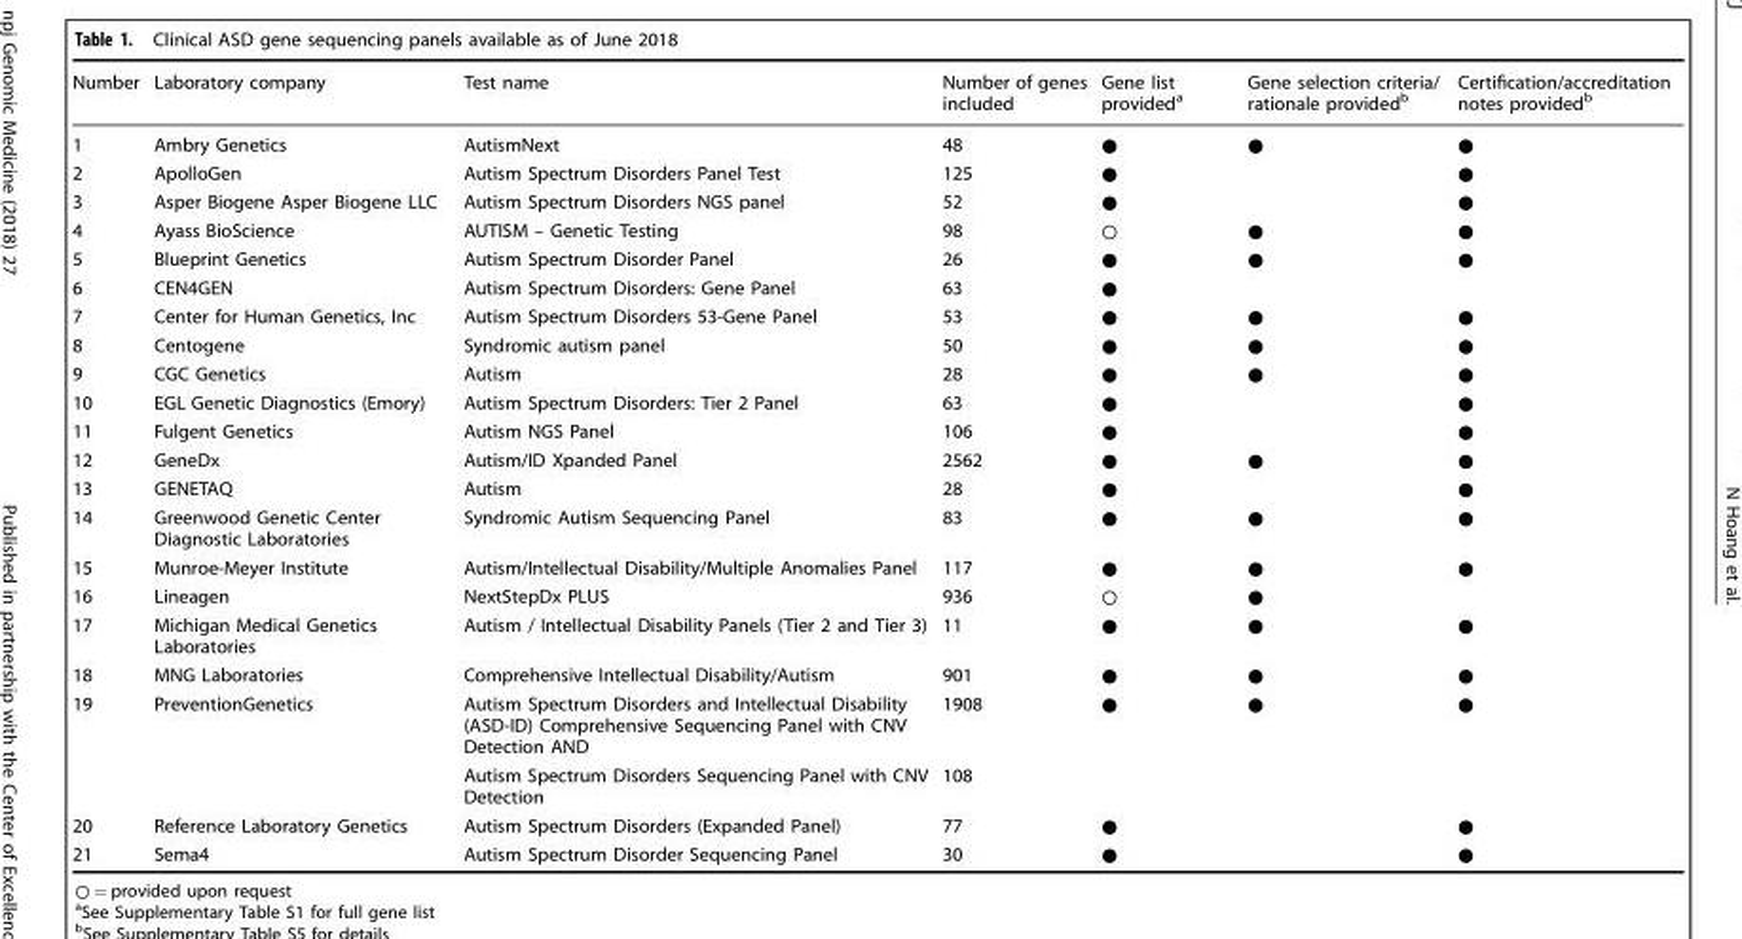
<table><thead><tr><td>Number</td><td>Laboratory company</td><td>Test name</td><td>Number of genes included</td><td>Gene list provided<sup>a</sup></td><td>Gene selection criteria/ rationale provided<sup>b</sup></td><td>Certification/accreditation notes provided<sup>b</sup></td></tr></thead><tbody><tr><td>1</td><td>Ambry Genetics</td><td>AutismNext</td><td>48</td><td>●</td><td>●</td><td>●</td></tr><tr><td>2</td><td>ApolloGen</td><td>Autism Spectrum Disorders Panel Test</td><td>125</td><td>●</td><td></td><td>●</td></tr><tr><td>3</td><td>Asper Biogene Asper Biogene LLC</td><td>Autism Spectrum Disorders NGS panel</td><td>52</td><td>●</td><td></td><td>●</td></tr><tr><td>4</td><td>Ayass BioScience</td><td>AUTISM – Genetic Testing</td><td>98</td><td>○</td><td>●</td><td>●</td></tr><tr><td>5</td><td>Blueprint Genetics</td><td>Autism Spectrum Disorder Panel</td><td>26</td><td>●</td><td>●</td><td>●</td></tr><tr><td>6</td><td>CEN4GEN</td><td>Autism Spectrum Disorders: Gene Panel</td><td>63</td><td>●</td><td></td><td></td></tr><tr><td>7</td><td>Center for Human Genetics, Inc</td><td>Autism Spectrum Disorders 53-Gene Panel</td><td>53</td><td>●</td><td>●</td><td>●</td></tr><tr><td>8</td><td>Centogene</td><td>Syndromic autism panel</td><td>50</td><td>●</td><td>●</td><td>●</td></tr><tr><td>9</td><td>CGC Genetics</td><td>Autism</td><td>28</td><td>●</td><td>●</td><td>●</td></tr><tr><td>10</td><td>EGL Genetic Diagnostics (Emory)</td><td>Autism Spectrum Disorders: Tier 2 Panel</td><td>63</td><td>●</td><td></td><td>●</td></tr><tr><td>11</td><td>Fulgent Genetics</td><td>Autism NGS Panel</td><td>106</td><td>●</td><td></td><td>●</td></tr><tr><td>12</td><td>GeneDx</td><td>Autism/ID Xpanded Panel</td><td>2562</td><td>●</td><td>●</td><td>●</td></tr><tr><td>13</td><td>GENETAQ</td><td>Autism</td><td>28</td><td>●</td><td></td><td>●</td></tr><tr><td>14</td><td>Greenwood Genetic Center Diagnostic Laboratories</td><td>Syndromic Autism Sequencing Panel</td><td>83</td><td>●</td><td>●</td><td>●</td></tr><tr><td>15</td><td>Munroe-Meyer Institute</td><td>Autism/Intellectual Disability/Multiple Anomalies Panel</td><td>117</td><td>●</td><td>●</td><td>●</td></tr><tr><td>16</td><td>Lineagen</td><td>NextStepDx PLUS</td><td>936</td><td>○</td><td>●</td><td></td></tr><tr><td>17</td><td>Michigan Medical Genetics Laboratories</td><td>Autism / Intellectual Disability Panels (Tier 2 and Tier 3)</td><td>11</td><td>●</td><td>●</td><td>●</td></tr><tr><td>18</td><td>MNG Laboratories</td><td>Comprehensive Intellectual Disability/Autism</td><td>901</td><td>●</td><td>●</td><td>●</td></tr><tr><td rowspan="2">19</td><td rowspan="2">PreventionGenetics</td><td>Autism Spectrum Disorders and Intellectual Disability (ASD-ID) Comprehensive Sequencing Panel with CNV Detection AND</td><td>1908</td><td rowspan="2">●</td><td rowspan="2">●</td><td rowspan="2">●</td></tr><tr><td>Autism Spectrum Disorders Sequencing Panel with CNV Detection</td><td>108</td></tr><tr><td>20</td><td>Reference Laboratory Genetics</td><td>Autism Spectrum Disorders (Expanded Panel)</td><td>77</td><td>●</td><td></td><td>●</td></tr><tr><td>21</td><td>Sema4</td><td>Autism Spectrum Disorder Sequencing Panel</td><td>30</td><td>●</td><td></td><td>●</td></tr></tbody></table>